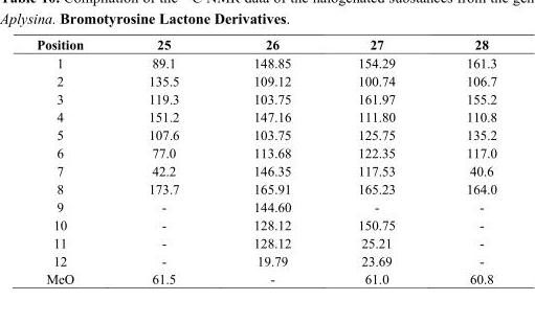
<table><thead><tr><td>Position</td><td>25</td><td>26</td><td>27</td><td>28</td></tr></thead><tbody><tr><td>1</td><td>89.1</td><td>148.85</td><td>154.29</td><td>161.3</td></tr><tr><td>2</td><td>135.5</td><td>109.12</td><td>100.74</td><td>106.7</td></tr><tr><td>3</td><td>119.3</td><td>103.75</td><td>161.97</td><td>155.2</td></tr><tr><td>4</td><td>151.2</td><td>147.16</td><td>111.80</td><td>110.8</td></tr><tr><td>5</td><td>107.6</td><td>103.75</td><td>125.75</td><td>135.2</td></tr><tr><td>6</td><td>77.0</td><td>113.68</td><td>122.35</td><td>117.0</td></tr><tr><td>7</td><td>42.2</td><td>146.35</td><td>117.53</td><td>40.6</td></tr><tr><td>8</td><td>173.7</td><td>165.91</td><td>165.23</td><td>164.0</td></tr><tr><td>9</td><td>-</td><td>144.60</td><td>-</td><td>-</td></tr><tr><td>10</td><td>-</td><td>128.12</td><td>150.75</td><td>-</td></tr><tr><td>11</td><td>-</td><td>128.12</td><td>25.21</td><td>-</td></tr><tr><td>12</td><td>-</td><td>19.79</td><td>23.69</td><td>-</td></tr><tr><td>MeO</td><td>61.5</td><td>-</td><td>61.0</td><td>60.8</td></tr></tbody></table>